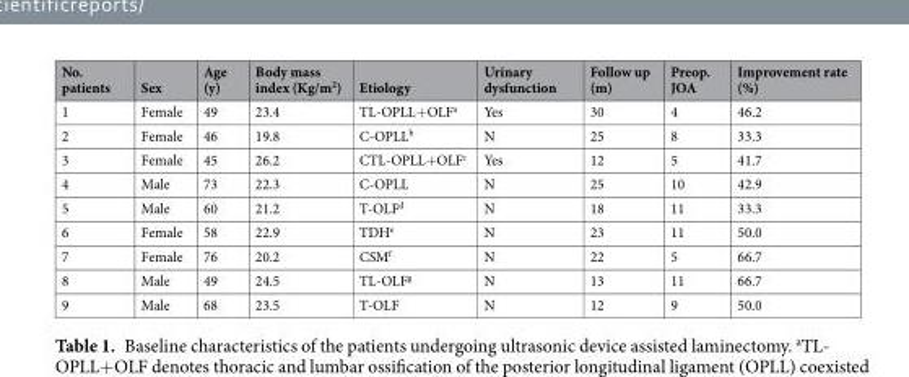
<table><thead><tr><td>No. patients</td><td>Sex</td><td>Age (y)</td><td>Body mass index (Kg/m<sup>2</sup>)</td><td>Etiology</td><td>Urinary dysfunction</td><td>Follow up (m)</td><td>Preop. JOA</td><td>Improvement rate (%)</td></tr></thead><tbody><tr><td>1</td><td>Female</td><td>49</td><td>23.4</td><td>TL-OPLL+OLF<sup>a</sup></td><td>Yes</td><td>30</td><td>4</td><td>46.2</td></tr><tr><td>2</td><td>Female</td><td>46</td><td>19.8</td><td>C-OPLL<sup>b</sup></td><td>N</td><td>25</td><td>8</td><td>33.3</td></tr><tr><td>3</td><td>Female</td><td>45</td><td>26.2</td><td>CTL-OPLL+OLF<sup>c</sup></td><td>Yes</td><td>12</td><td>5</td><td>41.7</td></tr><tr><td>4</td><td>Male</td><td>73</td><td>22.3</td><td>C-OPLL</td><td>N</td><td>25</td><td>10</td><td>42.9</td></tr><tr><td>5</td><td>Male</td><td>60</td><td>21.2</td><td>T-OLF<sup>d</sup></td><td>N</td><td>18</td><td>11</td><td>33.3</td></tr><tr><td>6</td><td>Female</td><td>58</td><td>22.9</td><td>TDH<sup>e</sup></td><td>N</td><td>23</td><td>11</td><td>50.0</td></tr><tr><td>7</td><td>Female</td><td>76</td><td>20.2</td><td>CSM<sup>f</sup></td><td>N</td><td>22</td><td>5</td><td>66.7</td></tr><tr><td>8</td><td>Male</td><td>49</td><td>24.5</td><td>TL-OLF<sup>g</sup></td><td>N</td><td>13</td><td>11</td><td>66.7</td></tr><tr><td>9</td><td>Male</td><td>68</td><td>23.5</td><td>T-OLF</td><td>N</td><td>12</td><td>9</td><td>50.0</td></tr></tbody></table>